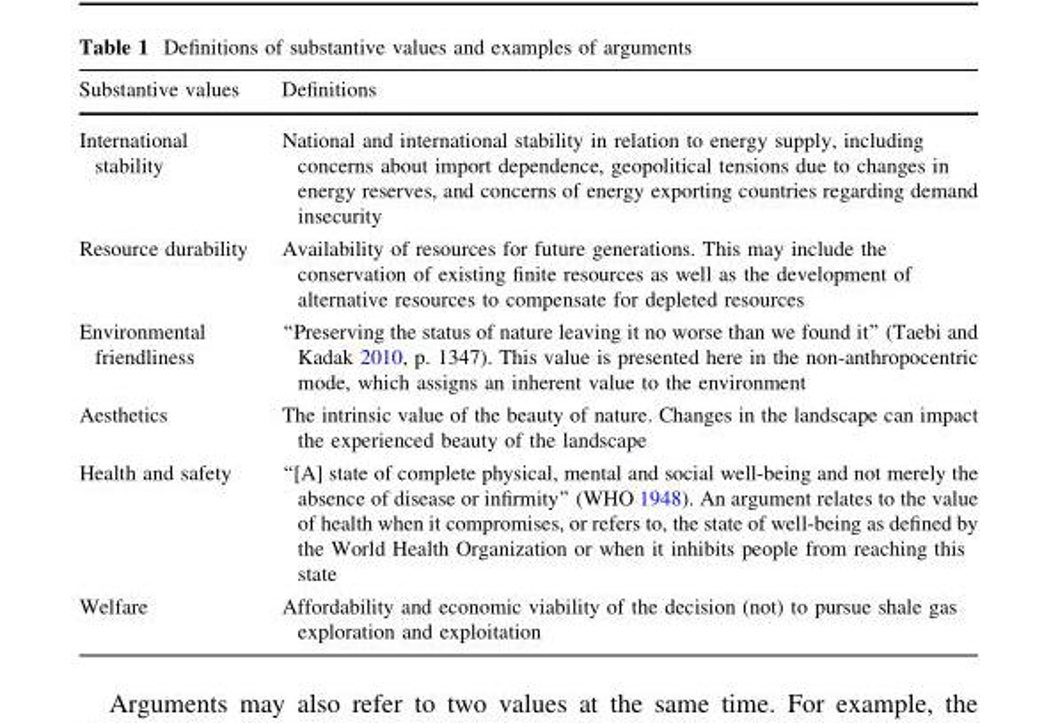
<table><thead><tr><td>Substantive values</td><td>Definitions</td></tr></thead><tbody><tr><td>International stability</td><td>National and international stability in relation to energy supply, including concerns about import dependence, geopolitical tensions due to changes in energy reserves, and concerns of energy exporting countries regarding demand insecurity</td></tr><tr><td>Resource durability</td><td>Availability of resources for future generations. This may include the conservation of existing finite resources as well as the development of alternative resources to compensate for depleted resources</td></tr><tr><td>Environmental friendliness</td><td>‘‘Preserving the status of nature leaving it no worse than we found it’’ (Taebi and Kadak 2010, p. 1347). This value is presented here in the non-anthropocentric mode, which assigns an inherent value to the environment</td></tr><tr><td>Aesthetics</td><td>The intrinsic value of the beauty of nature. Changes in the landscape can impact the experienced beauty of the landscape</td></tr><tr><td>Health and safety</td><td>‘‘[A] state of complete physical, mental and social well-being and not merely the absence of disease or infirmity’’ (WHO 1948). An argument relates to the value of health when it compromises, or refers to, the state of well-being as defined by the World Health Organization or when it inhibits people from reaching this state</td></tr><tr><td>Welfare</td><td>Affordability and economic viability of the decision (not) to pursue shale gas exploration and exploitation</td></tr></tbody></table>